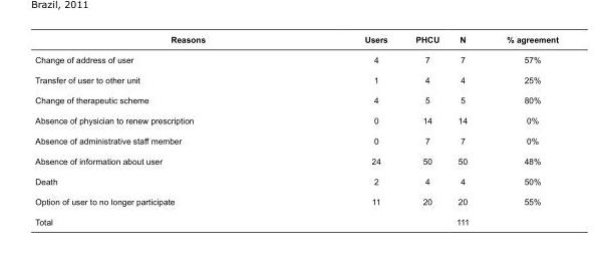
<table><tbody><tr><td>Reasons</td><td>Users</td><td>PHCU</td><td>N</td><td>% agreement</td></tr><tr><td>Change of address of user</td><td>4</td><td>7</td><td>7</td><td>57%</td></tr><tr><td>Transfer of user to other unit</td><td>1</td><td>4</td><td>4</td><td>25%</td></tr><tr><td>Change of therapeutic scheme</td><td>4</td><td>5</td><td>5</td><td>80%</td></tr><tr><td>Absence of physician to renew prescription</td><td>0</td><td>14</td><td>14</td><td>0%</td></tr><tr><td>Absence of administrative staff member</td><td>0</td><td>7</td><td>7</td><td>0%</td></tr><tr><td>Absence of information about user</td><td>24</td><td>50</td><td>50</td><td>48%</td></tr><tr><td>Death</td><td>2</td><td>4</td><td>4</td><td>50%</td></tr><tr><td>Option of user to no longer participate</td><td>11</td><td>20</td><td>20</td><td>55%</td></tr><tr><td>Total</td><td></td><td></td><td>111</td><td></td></tr></tbody></table>